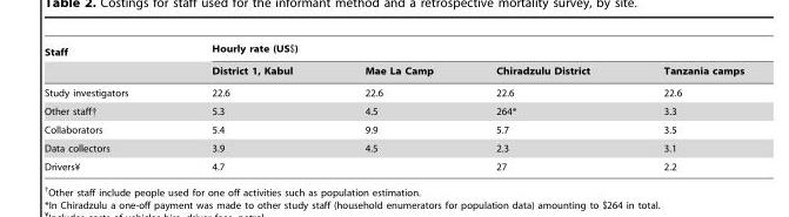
<table><thead><tr><td rowspan="2">Staff</td><td colspan="4">Hourly rate (US$)</td></tr><tr><td>District 1, Kabul</td><td>Mae La Camp</td><td>Chiradzulu District</td><td>Tanzania camps</td></tr></thead><tbody><tr><td>Study investigators</td><td>22.6</td><td>22.6</td><td>22.6</td><td>22.6</td></tr><tr><td>Other staff†</td><td>5.3</td><td>4.5</td><td>264*</td><td>3.3</td></tr><tr><td>Collaborators</td><td>5.4</td><td>9.9</td><td>5.7</td><td>3.5</td></tr><tr><td>Data collectors</td><td>3.9</td><td>4.5</td><td>2.3</td><td>3.1</td></tr><tr><td>Drivers¥</td><td>4.7</td><td></td><td>27</td><td>2.2</td></tr></tbody></table>